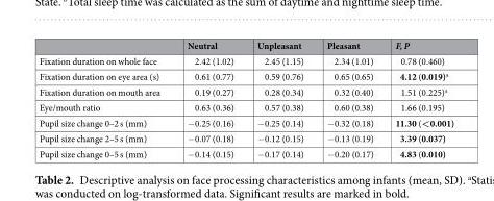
<table><thead><tr><td></td><td>Neutral</td><td>Unpleasant</td><td>Pleasant</td><td>F, P</td></tr></thead><tbody><tr><td>Fixation duration on whole face</td><td>2.42 (1.02)</td><td>2.45 (1.15)</td><td>2.34 (1.01)</td><td>0.78 (0.460)</td></tr><tr><td>Fixation duration on eye area (s)</td><td>0.61 (0.77)</td><td>0.59 (0.76)</td><td>0.65 (0.65)</td><td>4.12 (0.019)<sup>a</sup></td></tr><tr><td>Fixation duration on mouth area</td><td>0.19 (0.27)</td><td>0.28 (0.34)</td><td>0.32 (0.40)</td><td>1.51 (0.225)<sup>a</sup></td></tr><tr><td>Eye/mouth ratio</td><td>0.63 (0.36)</td><td>0.57 (0.38)</td><td>0.60 (0.38)</td><td>1.66 (0.195)</td></tr><tr><td>Pupil size change 0–2 s (mm)</td><td>−0.25 (0.16)</td><td>−0.25 (0.14)</td><td>−0.32 (0.18)</td><td>11.30 (&lt;0.001)</td></tr><tr><td>Pupil size change 2–5 s (mm)</td><td>−0.07 (0.18)</td><td>−0.12 (0.15)</td><td>−0.13 (0.19)</td><td>3.39 (0.037)</td></tr><tr><td>Pupil size change 0–5 s (mm)</td><td>−0.14 (0.15)</td><td>−0.17 (0.14)</td><td>−0.20 (0.17)</td><td>4.83 (0.010)</td></tr></tbody></table>